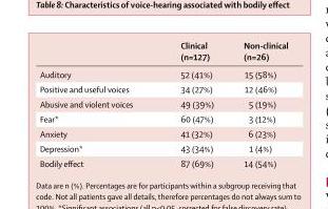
<table><thead><tr><td></td><td>Clinical (n=127)</td><td>Non-clinical (n=26)</td></tr></thead><tbody><tr><td>Auditory</td><td>52 (41%)</td><td>15 (58%)</td></tr><tr><td>Positive and useful voices</td><td>34 (27%)</td><td>12 (46%)</td></tr><tr><td>Abusive and violent voices</td><td>49 (39%)</td><td>5 (19%)</td></tr><tr><td>Fear*</td><td>60 (47%)</td><td>3 (12%)</td></tr><tr><td>Anxiety</td><td>41 (32%)</td><td>6 (23%)</td></tr><tr><td>Depression*</td><td>43 (34%)</td><td>1 (4%)</td></tr><tr><td>Bodily eff ect</td><td>87 (69%)</td><td>14 (54%)</td></tr></tbody></table>